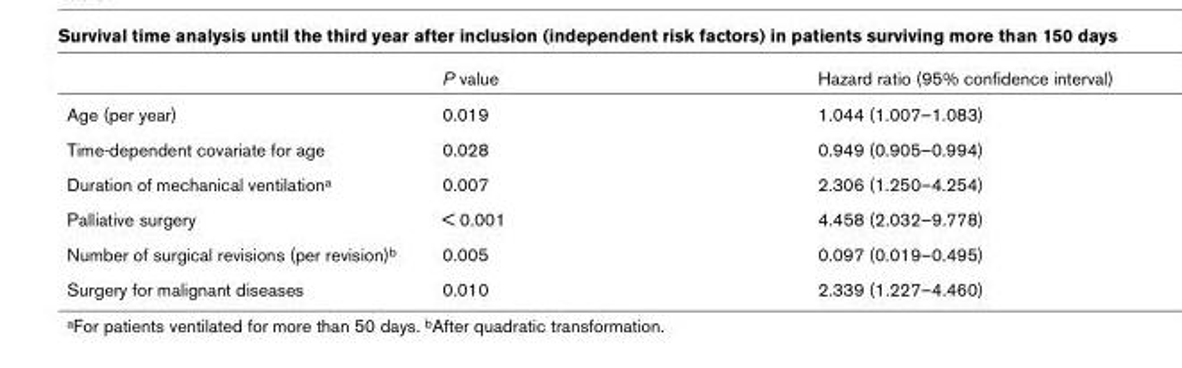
<table><thead><tr><td></td><td>P value</td><td>Hazard ratio (95% confidence interval)</td></tr></thead><tbody><tr><td>Age (per year)</td><td>0.019</td><td>1.044 (1.007–1.083)</td></tr><tr><td>Time-dependent covariate for age</td><td>0.028</td><td>0.949 (0.905–0.994)</td></tr><tr><td>Duration of mechanical ventilation<sup>a</sup></td><td>0.007</td><td>2.306 (1.250–4.254)</td></tr><tr><td>Palliative surgery</td><td>&lt; 0.001</td><td>4.458 (2.032–9.778)</td></tr><tr><td>Number of surgical revisions (per revision)<sup>b</sup></td><td>0.005</td><td>0.097 (0.019–0.495)</td></tr><tr><td>Surgery for malignant diseases</td><td>0.010</td><td>2.339 (1.227–4.460)</td></tr></tbody></table>